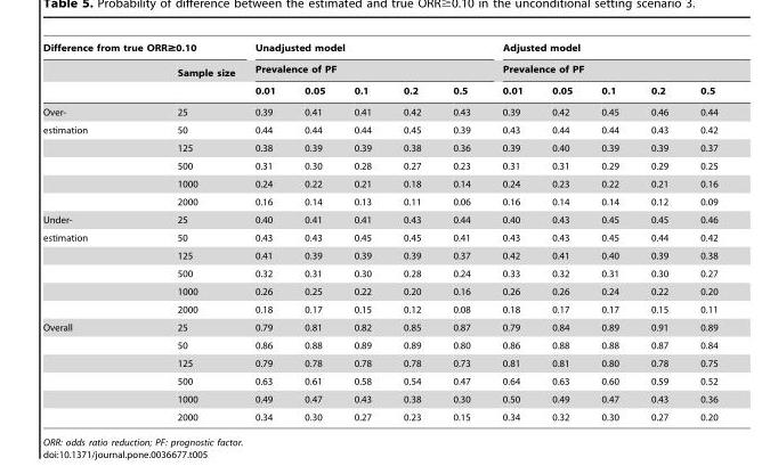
<table><thead><tr><td colspan="2">Difference from true ORR≥0.10</td><td rowspan="2" colspan="5">Unadjusted model Prevalence of PF</td><td rowspan="2" colspan="5">Adjusted model Prevalence of PF</td></tr><tr><td rowspan="2"></td><td rowspan="2">Sample size</td></tr><tr><td>0.01</td><td>0.05</td><td>0.1</td><td>0.2</td><td>0.5</td><td>0.01</td><td>0.05</td><td>0.1</td><td>0.2</td><td>0.5</td></tr></thead><tbody><tr><td>Over-</td><td>25</td><td>0.39</td><td>0.41</td><td>0.41</td><td>0.42</td><td>0.43</td><td>0.39</td><td>0.42</td><td>0.45</td><td>0.46</td><td>0.44</td></tr><tr><td rowspan="5">estimation</td><td>50</td><td>0.44</td><td>0.44</td><td>0.44</td><td>0.45</td><td>0.39</td><td>0.43</td><td>0.44</td><td>0.44</td><td>0.43</td><td>0.42</td></tr><tr><td>125</td><td>0.38</td><td>0.39</td><td>0.39</td><td>0.38</td><td>0.36</td><td>0.39</td><td>0.40</td><td>0.39</td><td>0.39</td><td>0.37</td></tr><tr><td>500</td><td>0.31</td><td>0.30</td><td>0.28</td><td>0.27</td><td>0.23</td><td>0.31</td><td>0.31</td><td>0.29</td><td>0.29</td><td>0.25</td></tr><tr><td>1000</td><td>0.24</td><td>0.22</td><td>0.21</td><td>0.18</td><td>0.14</td><td>0.24</td><td>0.23</td><td>0.22</td><td>0.21</td><td>0.16</td></tr><tr><td>2000</td><td>0.16</td><td>0.14</td><td>0.13</td><td>0.11</td><td>0.06</td><td>0.16</td><td>0.14</td><td>0.14</td><td>0.12</td><td>0.09</td></tr><tr><td>Under-</td><td>25</td><td>0.40</td><td>0.41</td><td>0.41</td><td>0.43</td><td>0.44</td><td>0.40</td><td>0.43</td><td>0.45</td><td>0.45</td><td>0.46</td></tr><tr><td rowspan="5">estimation</td><td>50</td><td>0.43</td><td>0.43</td><td>0.45</td><td>0.45</td><td>0.41</td><td>0.43</td><td>0.43</td><td>0.45</td><td>0.44</td><td>0.42</td></tr><tr><td>125</td><td>0.41</td><td>0.39</td><td>0.39</td><td>0.39</td><td>0.37</td><td>0.42</td><td>0.41</td><td>0.40</td><td>0.39</td><td>0.38</td></tr><tr><td>500</td><td>0.32</td><td>0.31</td><td>0.30</td><td>0.28</td><td>0.24</td><td>0.33</td><td>0.32</td><td>0.31</td><td>0.30</td><td>0.27</td></tr><tr><td>1000</td><td>0.26</td><td>0.25</td><td>0.22</td><td>0.20</td><td>0.16</td><td>0.26</td><td>0.26</td><td>0.24</td><td>0.22</td><td>0.20</td></tr><tr><td>2000</td><td>0.18</td><td>0.17</td><td>0.15</td><td>0.12</td><td>0.08</td><td>0.18</td><td>0.17</td><td>0.17</td><td>0.15</td><td>0.11</td></tr><tr><td rowspan="6">Overall</td><td>25</td><td>0.79</td><td>0.81</td><td>0.82</td><td>0.85</td><td>0.87</td><td>0.79</td><td>0.84</td><td>0.89</td><td>0.91</td><td>0.89</td></tr><tr><td>50</td><td>0.86</td><td>0.88</td><td>0.89</td><td>0.89</td><td>0.80</td><td>0.86</td><td>0.88</td><td>0.88</td><td>0.87</td><td>0.84</td></tr><tr><td>125</td><td>0.79</td><td>0.78</td><td>0.78</td><td>0.78</td><td>0.73</td><td>0.81</td><td>0.81</td><td>0.80</td><td>0.78</td><td>0.75</td></tr><tr><td>500</td><td>0.63</td><td>0.61</td><td>0.58</td><td>0.54</td><td>0.47</td><td>0.64</td><td>0.63</td><td>0.60</td><td>0.59</td><td>0.52</td></tr><tr><td>1000</td><td>0.49</td><td>0.47</td><td>0.43</td><td>0.38</td><td>0.30</td><td>0.50</td><td>0.49</td><td>0.47</td><td>0.43</td><td>0.36</td></tr><tr><td>2000</td><td>0.34</td><td>0.30</td><td>0.27</td><td>0.23</td><td>0.15</td><td>0.34</td><td>0.32</td><td>0.30</td><td>0.27</td><td>0.20</td></tr></tbody></table>